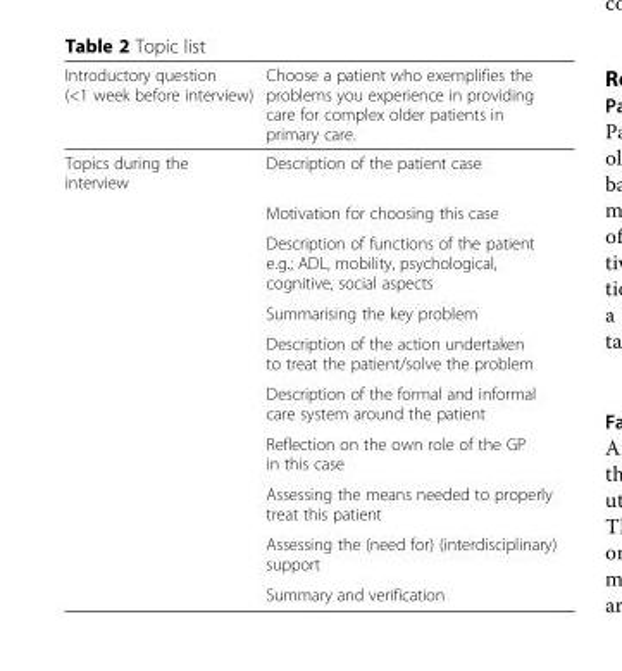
<table><thead><tr><td>Introductory question (&lt;1 week before interview)</td><td>Choose a patient who exemplifies the problems you experience in providing care for complex older patients in primary care.</td></tr></thead><tbody><tr><td rowspan="10">Topics during the interview</td><td>Description of the patient case</td></tr><tr><td>Motivation for choosing this case</td></tr><tr><td>Description of functions of the patient e.g.; ADL, mobility, psychological, cognitive, social aspects</td></tr><tr><td>Summarising the key problem</td></tr><tr><td>Description of the action undertaken to treat the patient/solve the problem</td></tr><tr><td>Description of the formal and informal care system around the patient</td></tr><tr><td>Reflection on the own role of the GP in this case</td></tr><tr><td>Assessing the means needed to properly treat this patient</td></tr><tr><td>Assessing the (need for) (interdisciplinary) support</td></tr><tr><td>Summary and verification</td></tr></tbody></table>